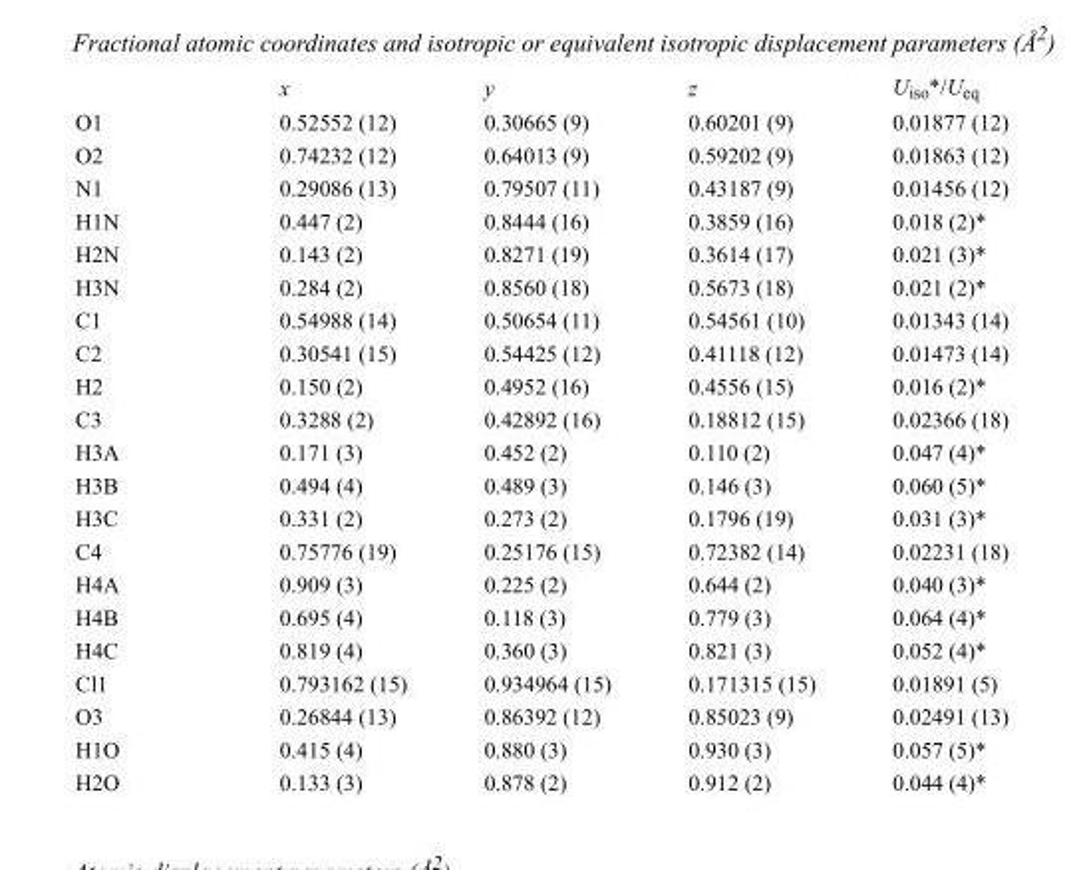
<table><thead><tr><td></td><td>x</td><td>y</td><td>z</td><td>U<sub>iso</sub>*/U<sub>eq</sub></td></tr></thead><tbody><tr><td>O1</td><td>0.52552 (12)</td><td>0.30665 (9)</td><td>0.60201 (9)</td><td>0.01877 (12)</td></tr><tr><td>O2</td><td>0.74232 (12)</td><td>0.64013 (9)</td><td>0.59202 (9)</td><td>0.01863 (12)</td></tr><tr><td>N1</td><td>0.29086 (13)</td><td>0.79507 (11)</td><td>0.43187 (9)</td><td>0.01456 (12)</td></tr><tr><td>H1N</td><td>0.447 (2)</td><td>0.8444 (16)</td><td>0.3859 (16)</td><td>0.018 (2)*</td></tr><tr><td>H2N</td><td>0.143 (2)</td><td>0.8271 (19)</td><td>0.3614 (17)</td><td>0.021 (3)*</td></tr><tr><td>H3N</td><td>0.284 (2)</td><td>0.8560 (18)</td><td>0.5673 (18)</td><td>0.021 (2)*</td></tr><tr><td>C1</td><td>0.54988 (14)</td><td>0.50654 (11)</td><td>0.54561 (10)</td><td>0.01343 (14)</td></tr><tr><td>C2</td><td>0.30541 (15)</td><td>0.54425 (12)</td><td>0.41118 (12)</td><td>0.01473 (14)</td></tr><tr><td>H2</td><td>0.150 (2)</td><td>0.4952 (16)</td><td>0.4556 (15)</td><td>0.016 (2)*</td></tr><tr><td>C3</td><td>0.3288 (2)</td><td>0.42892 (16)</td><td>0.18812 (15)</td><td>0.02366 (18)</td></tr><tr><td>H3A</td><td>0.171 (3)</td><td>0.452 (2)</td><td>0.110 (2)</td><td>0.047 (4)*</td></tr><tr><td>H3B</td><td>0.494 (4)</td><td>0.489 (3)</td><td>0.146 (3)</td><td>0.060 (5)*</td></tr><tr><td>H3C</td><td>0.331 (2)</td><td>0.273 (2)</td><td>0.1796 (19)</td><td>0.031 (3)*</td></tr><tr><td>C4</td><td>0.75776 (19)</td><td>0.25176 (15)</td><td>0.72382 (14)</td><td>0.02231 (18)</td></tr><tr><td>H4A</td><td>0.909 (3)</td><td>0.225 (2)</td><td>0.644 (2)</td><td>0.040 (3)*</td></tr><tr><td>H4B</td><td>0.695 (4)</td><td>0.118 (3)</td><td>0.779 (3)</td><td>0.064 (4)*</td></tr><tr><td>H4C</td><td>0.819 (4)</td><td>0.360 (3)</td><td>0.821 (3)</td><td>0.052 (4)*</td></tr><tr><td>Cl1</td><td>0.793162 (15)</td><td>0.934964 (15)</td><td>0.171315 (15)</td><td>0.01891 (5)</td></tr><tr><td>O3</td><td>0.26844 (13)</td><td>0.86392 (12)</td><td>0.85023 (9)</td><td>0.02491 (13)</td></tr><tr><td>H1O</td><td>0.415 (4)</td><td>0.880 (3)</td><td>0.930 (3)</td><td>0.057 (5)*</td></tr><tr><td>H2O</td><td>0.133 (3)</td><td>0.878 (2)</td><td>0.912 (2)</td><td>0.044 (4)*</td></tr></tbody></table>